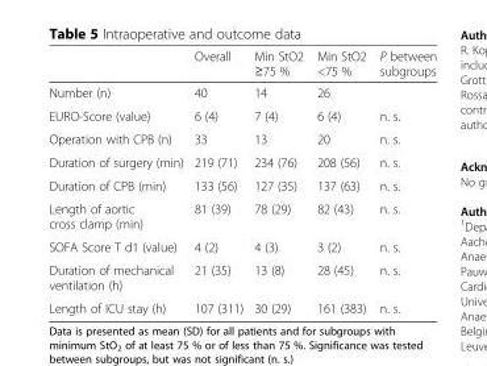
<table><thead><tr><td></td><td>Overall</td><td>Min StO2 ≥75 %</td><td>Min StO2 &lt;75 %</td><td>P between subgroups</td></tr></thead><tbody><tr><td>Number (n)</td><td>40</td><td>14</td><td>26</td><td></td></tr><tr><td>EURO-Score (value)</td><td>6 (4)</td><td>7 (4)</td><td>6 (4)</td><td>n. s.</td></tr><tr><td>Operation with CPB (n)</td><td>33</td><td>13</td><td>20</td><td>n. s.</td></tr><tr><td>Duration of surgery (min)</td><td>219 (71)</td><td>234 (76)</td><td>208 (56)</td><td>n. s.</td></tr><tr><td>Duration of CPB (min)</td><td>133 (56)</td><td>127 (35)</td><td>137 (63)</td><td>n. s.</td></tr><tr><td>Length of aortic cross clamp (min)</td><td>81 (39)</td><td>78 (29)</td><td>82 (43)</td><td>n. s.</td></tr><tr><td>SOFA Score T d1 (value)</td><td>4 (2)</td><td>4 (3)</td><td>3 (2)</td><td>n. s.</td></tr><tr><td>Duration of mechanical ventilation (h)</td><td>21 (35)</td><td>13 (8)</td><td>28 (45)</td><td>n. s.</td></tr><tr><td>Length of ICU stay (h)</td><td>107 (311)</td><td>30 (29)</td><td>161 (383)</td><td>n. s.</td></tr></tbody></table>